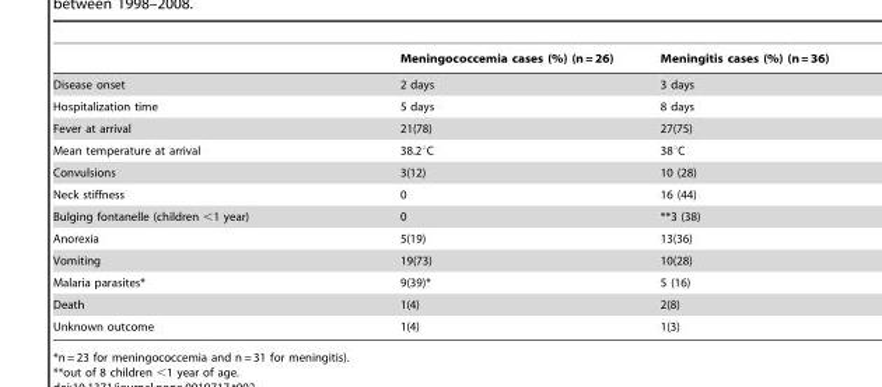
<table><thead><tr><td></td><td>Meningococcemia cases (%) (n = 26)</td><td>Meningitis cases (%) (n = 36)</td></tr></thead><tbody><tr><td>Disease onset</td><td>2 days</td><td>3 days</td></tr><tr><td>Hospitalization time</td><td>5 days</td><td>8 days</td></tr><tr><td>Fever at arrival</td><td>21(78)</td><td>27(75)</td></tr><tr><td>Mean temperature at arrival</td><td>38.2°C</td><td>38°C</td></tr><tr><td>Convulsions</td><td>3(12)</td><td>10 (28)</td></tr><tr><td>Neck stiffness</td><td>0</td><td>16 (44)</td></tr><tr><td>Bulging fontanelle (children &lt;1 year)</td><td>0</td><td>**3 (38)</td></tr><tr><td>Anorexia</td><td>5(19)</td><td>13(36)</td></tr><tr><td>Vomiting</td><td>19(73)</td><td>10(28)</td></tr><tr><td>Malaria parasites*</td><td>9(39)*</td><td>5 (16)</td></tr><tr><td>Death</td><td>1(4)</td><td>2(8)</td></tr><tr><td>Unknown outcome</td><td>1(4)</td><td>1(3)</td></tr></tbody></table>